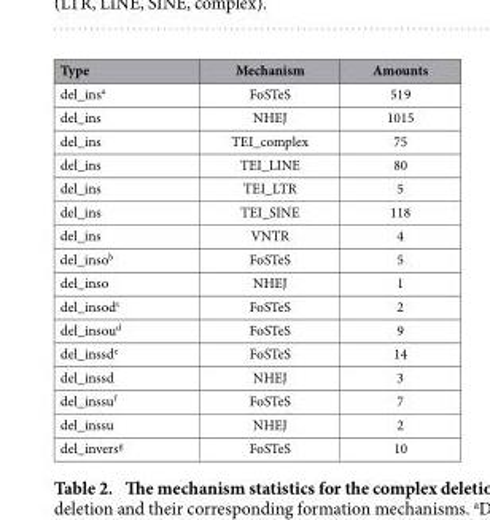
<table><thead><tr><td>Type</td><td>Mechanism</td><td>Amounts</td></tr></thead><tbody><tr><td>del_ins<sup>a</sup></td><td>FoSTeS</td><td>519</td></tr><tr><td>del_ins</td><td>NHEJ</td><td>1015</td></tr><tr><td>del_ins</td><td>TEI_complex</td><td>75</td></tr><tr><td>del_ins</td><td>TEI_LINE</td><td>80</td></tr><tr><td>del_ins</td><td>TEI_LTR</td><td>5</td></tr><tr><td>del_ins</td><td>TEI_SINE</td><td>118</td></tr><tr><td>del_ins</td><td>VNTR</td><td>4</td></tr><tr><td>del_inso<sup>b</sup></td><td>FoSTeS</td><td>5</td></tr><tr><td>del_inso</td><td>NHEJ</td><td>1</td></tr><tr><td>del_insod<sup>c</sup></td><td>FoSTeS</td><td>2</td></tr><tr><td>del_insou<sup>d</sup></td><td>FoSTeS</td><td>9</td></tr><tr><td>del_inssd<sup>e</sup></td><td>FoSTeS</td><td>14</td></tr><tr><td>del_inssd</td><td>NHEJ</td><td>3</td></tr><tr><td>del_inssu<sup>f</sup></td><td>FoSTeS</td><td>7</td></tr><tr><td>del_inssu</td><td>NHEJ</td><td>2</td></tr><tr><td>del_invers<sup>g</sup></td><td>FoSTeS</td><td>10</td></tr></tbody></table>